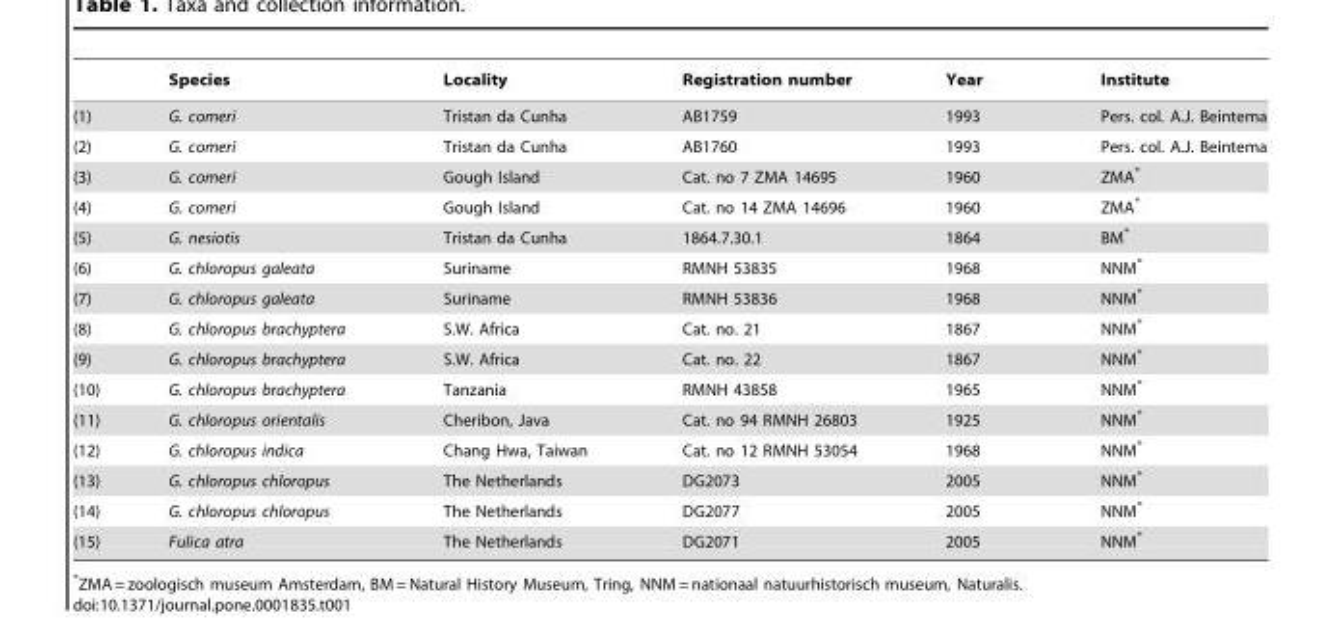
<table><thead><tr><td></td><td>Species</td><td>Locality</td><td>Registration number</td><td>Year</td><td>Institute</td></tr></thead><tbody><tr><td>(1)</td><td>G. comeri</td><td>Tristan da Cunha</td><td>AB1759</td><td>1993</td><td>Pers. col. A.J. Beintema</td></tr><tr><td>(2)</td><td>G. comeri</td><td>Tristan da Cunha</td><td>AB1760</td><td>1993</td><td>Pers. col. A.J. Beintema</td></tr><tr><td>(3)</td><td>G. comeri</td><td>Gough Island</td><td>Cat. no 7 ZMA 14695</td><td>1960</td><td>ZMA*</td></tr><tr><td>(4)</td><td>G. comeri</td><td>Gough Island</td><td>Cat. no 14 ZMA 14696</td><td>1960</td><td>ZMA*</td></tr><tr><td>(5)</td><td>G. nesiotis</td><td>Tristan da Cunha</td><td>1864.7.30.1</td><td>1864</td><td>BM*</td></tr><tr><td>(6)</td><td>G. chloropus galeata</td><td>Suriname</td><td>RMNH 53835</td><td>1968</td><td>NNM*</td></tr><tr><td>(7)</td><td>G. chloropus galeata</td><td>Suriname</td><td>RMNH 53836</td><td>1968</td><td>NNM*</td></tr><tr><td>(8)</td><td>G. chloropus brachyptera</td><td>S.W. Africa</td><td>Cat. no. 21</td><td>1867</td><td>NNM*</td></tr><tr><td>(9)</td><td>G. chloropus brachyptera</td><td>S.W. Africa</td><td>Cat. no. 22</td><td>1867</td><td>NNM*</td></tr><tr><td>(10)</td><td>G. chloropus brachyptera</td><td>Tanzania</td><td>RMNH 43858</td><td>1965</td><td>NNM*</td></tr><tr><td>(11)</td><td>G. chloropus orientalis</td><td>Cheribon, Java</td><td>Cat. no 94 RMNH 26803</td><td>1925</td><td>NNM*</td></tr><tr><td>(12)</td><td>G. chloropus indica</td><td>Chang Hwa, Taiwan</td><td>Cat. no 12 RMNH 53054</td><td>1968</td><td>NNM*</td></tr><tr><td>(13)</td><td>G. chloropus chloropus</td><td>The Netherlands</td><td>DG2073</td><td>2005</td><td>NNM*</td></tr><tr><td>(14)</td><td>G. chloropus chloropus</td><td>The Netherlands</td><td>DG2077</td><td>2005</td><td>NNM*</td></tr><tr><td>(15)</td><td>Fulica atra</td><td>The Netherlands</td><td>DG2071</td><td>2005</td><td>NNM*</td></tr></tbody></table>